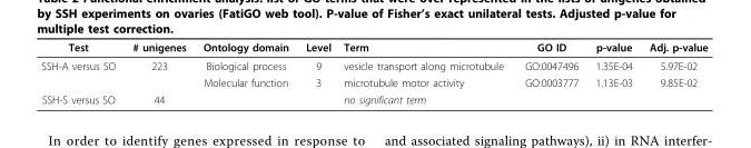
<table><thead><tr><td>Test</td><td># unigenes</td><td>Ontology domain</td><td>Level</td><td>Term</td><td>GO ID</td><td>p-value</td><td>Adj. p-value</td></tr></thead><tbody><tr><td rowspan="2">SSH-A versus SO</td><td>223</td><td>Biological process</td><td>9</td><td>vesicle transport along microtubule</td><td>GO:0047496</td><td>1.35E-04</td><td>5.97E-02</td></tr><tr><td></td><td>Molecular function</td><td>3</td><td>microtubule motor activity</td><td>GO:0003777</td><td>1.13E-03</td><td>9.85E-02</td></tr><tr><td>SSH-S versus SO</td><td>44</td><td></td><td></td><td>no significant term</td><td></td><td></td><td></td></tr></tbody></table>